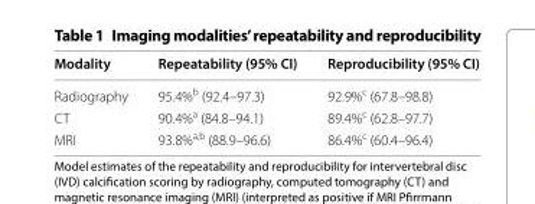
<table><thead><tr><td>Modality</td><td>Repeatability (95% CI)</td><td>Reproducibility (95% CI)</td></tr></thead><tbody><tr><td>Radiography</td><td>95.4%<sup>b</sup> (92.4–97.3)</td><td>92.9%<sup>c</sup> (67.8–98.8)</td></tr><tr><td>CT</td><td>90.4%<sup>a</sup> (84.8–94.1)</td><td>89.4%<sup>c</sup> (62.8–97.7)</td></tr><tr><td>MRI</td><td>93.8%<sup>a,b</sup> (88.9–96.6)</td><td>86.4%<sup>c</sup> (60.4–96.4)</td></tr></tbody></table>